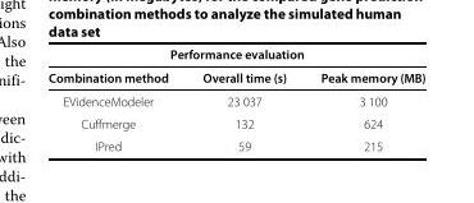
<table><thead><tr><td colspan="3">Performance evaluation</td></tr><tr><td>Combination method</td><td>Overall time (s)</td><td>Peak memory (MB)</td></tr></thead><tbody><tr><td>EVidenceModeler</td><td>23 037</td><td>3 100</td></tr><tr><td>Cuffmerge</td><td>132</td><td>624</td></tr><tr><td>IPred</td><td>59</td><td>215</td></tr></tbody></table>